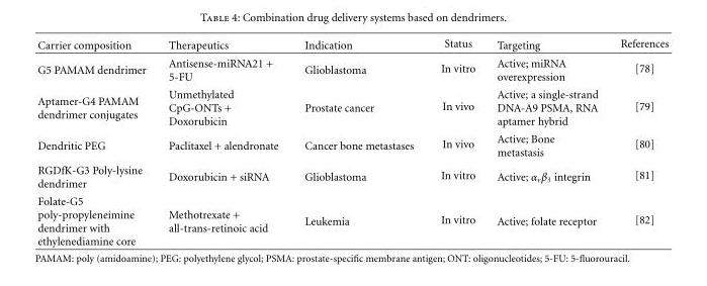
<table><thead><tr><td>Carrier composition</td><td>Therapeutics</td><td>Indication</td><td>Status</td><td>Targeting</td><td>References</td></tr></thead><tbody><tr><td>G5 PAMAM dendrimer</td><td>Antisense-miRNA21 + 5-FU</td><td>Glioblastoma</td><td>In vitro</td><td>Active; miRNA overexpression</td><td>[78]</td></tr><tr><td>Aptamer-G4 PAMAM dendrimer conjugates</td><td>Unmethylated CpG-ONTs + Doxorubicin</td><td>Prostate cancer</td><td>In vivo</td><td>Active; a single-strand DNA-A9 PSMA, RNA aptamer hybrid</td><td>[79]</td></tr><tr><td>Dendritic PEG</td><td>Paclitaxel + alendronate</td><td>Cancer bone metastases</td><td>In vivo</td><td>Active; Bone metastasis</td><td>[80]</td></tr><tr><td>RGDfK-G3 Poly-lysine dendrimer</td><td>Doxorubicin + siRNA</td><td>Glioblastoma</td><td>In vitro</td><td>Active; α<sub>v</sub>β<sub>3</sub> integrin</td><td>[81]</td></tr><tr><td>Folate-G5 poly-propyleneimine dendrimer with ethylenediamine core</td><td>Methotrexate + all-trans-retinoic acid</td><td>Leukemia</td><td>In vitro</td><td>Active; folate receptor</td><td>[82]</td></tr></tbody></table>